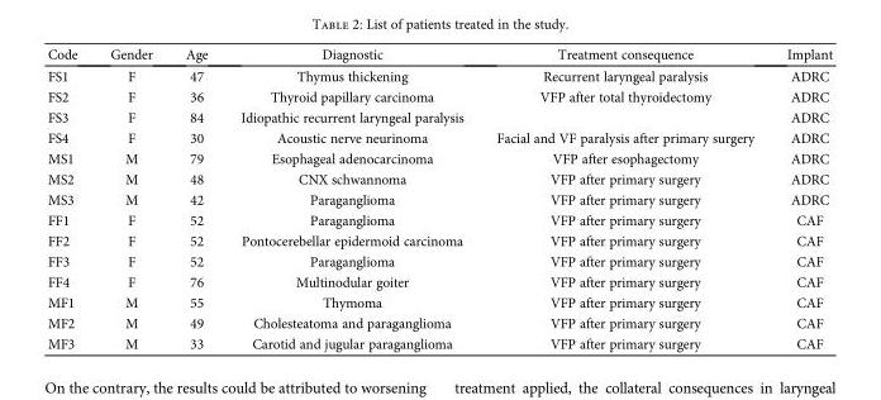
<table><thead><tr><td>Code</td><td>Gender</td><td>Age</td><td>Diagnostic</td><td>Treatment consequence</td><td>Implant</td></tr></thead><tbody><tr><td>FS1</td><td>F</td><td>47</td><td>Thymus thickening</td><td>Recurrent laryngeal paralysis</td><td>ADRC</td></tr><tr><td>FS2</td><td>F</td><td>36</td><td>Thyroid papillary carcinoma</td><td>VFP after total thyroidectomy</td><td>ADRC</td></tr><tr><td>FS3</td><td>F</td><td>84</td><td>Idiopathic recurrent laryngeal paralysis</td><td></td><td>ADRC</td></tr><tr><td>FS4</td><td>F</td><td>30</td><td>Acoustic nerve neurinoma</td><td>Facial and VF paralysis after primary surgery</td><td>ADRC</td></tr><tr><td>MS1</td><td>M</td><td>79</td><td>Esophageal adenocarcinoma</td><td>VFP after esophagectomy</td><td>ADRC</td></tr><tr><td>MS2</td><td>M</td><td>48</td><td>CNX schwannoma</td><td>VFP after primary surgery</td><td>ADRC</td></tr><tr><td>MS3</td><td>M</td><td>42</td><td>Paraganglioma</td><td>VFP after primary surgery</td><td>ADRC</td></tr><tr><td>FF1</td><td>F</td><td>52</td><td>Paraganglioma</td><td>VFP after primary surgery</td><td>CAF</td></tr><tr><td>FF2</td><td>F</td><td>52</td><td>Pontocerebellar epidermoid carcinoma</td><td>VFP after primary surgery</td><td>CAF</td></tr><tr><td>FF3</td><td>F</td><td>52</td><td>Paraganglioma</td><td>VFP after primary surgery</td><td>CAF</td></tr><tr><td>FF4</td><td>F</td><td>76</td><td>Multinodular goiter</td><td>VFP after primary surgery</td><td>CAF</td></tr><tr><td>MF1</td><td>M</td><td>55</td><td>Thymoma</td><td>VFP after primary surgery</td><td>CAF</td></tr><tr><td>MF2</td><td>M</td><td>49</td><td>Cholesteatoma and paraganglioma</td><td>VFP after primary surgery</td><td>CAF</td></tr><tr><td>MF3</td><td>M</td><td>33</td><td>Carotid and jugular paraganglioma</td><td>VFP after primary surgery</td><td>CAF</td></tr></tbody></table>